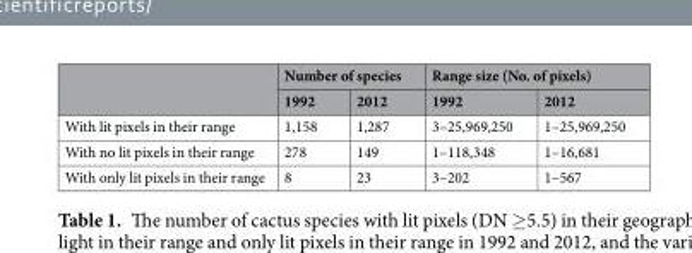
<table><thead><tr><td rowspan="2"></td><td colspan="2">Number of species</td><td colspan="2">Range size (No. of pixels)</td></tr><tr><td>1992</td><td>2012</td><td>1992</td><td>2012</td></tr></thead><tbody><tr><td>With lit pixels in their range</td><td>1,158</td><td>1,287</td><td>3–25,969,250</td><td>1–25,969,250</td></tr><tr><td>With no lit pixels in their range</td><td>278</td><td>149</td><td>1–118,348</td><td>1–16,681</td></tr><tr><td>With only lit pixels in their range</td><td>8</td><td>23</td><td>3–202</td><td>1–567</td></tr></tbody></table>